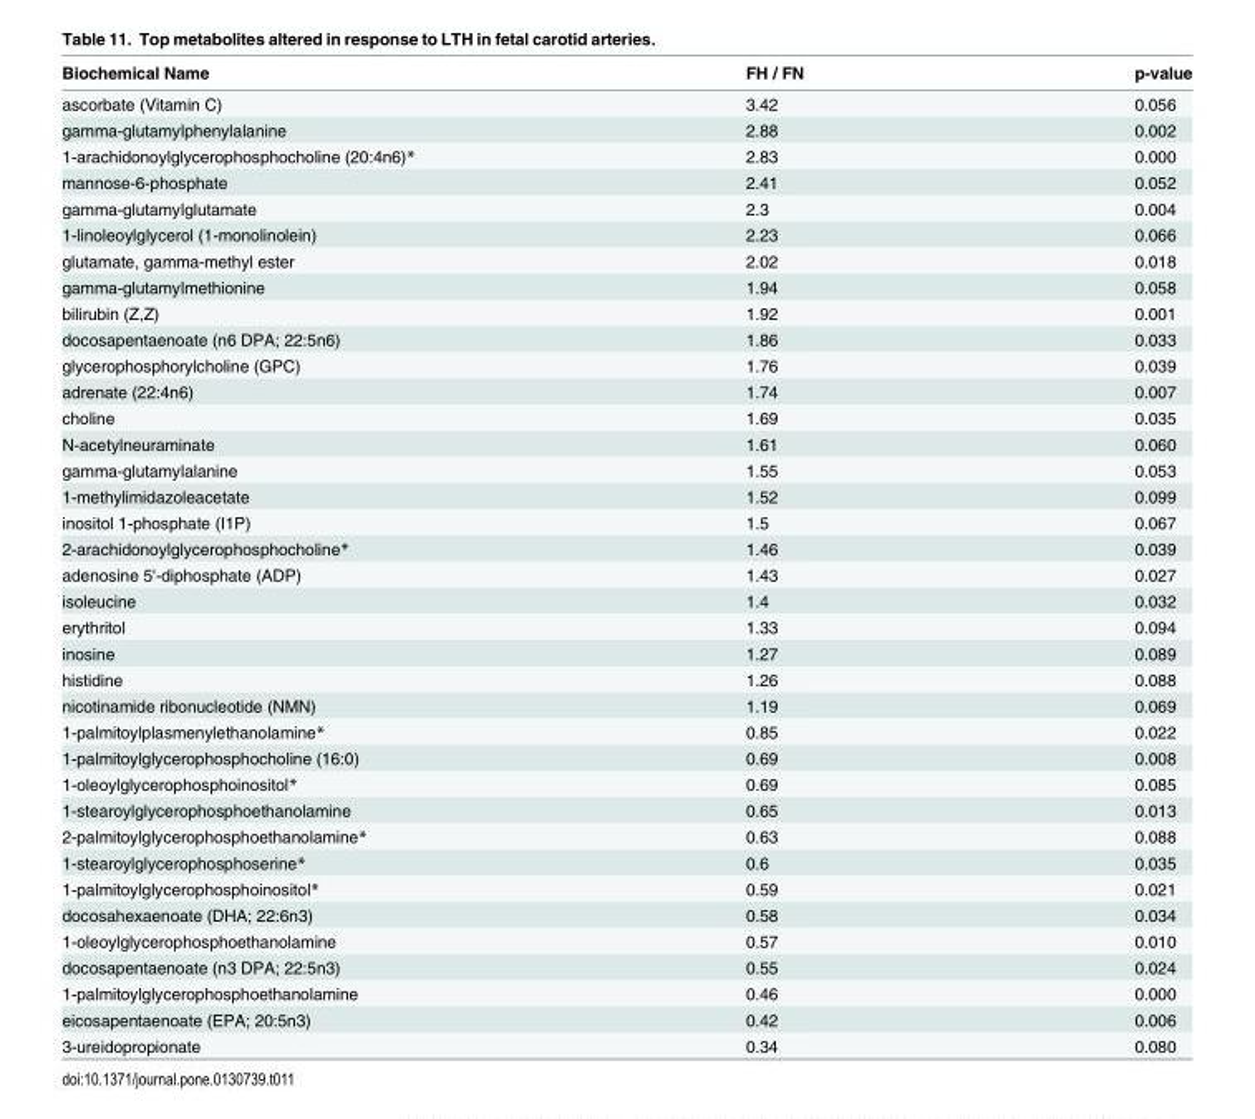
<table><thead><tr><td>Biochemical Name</td><td>FH / FN</td><td>p-value</td></tr></thead><tbody><tr><td>ascorbate (Vitamin C)</td><td>3.42</td><td>0.056</td></tr><tr><td>gamma-glutamylphenylalanine</td><td>2.88</td><td>0.002</td></tr><tr><td>1-arachidonoylglycerophosphocholine (20:4n6)*</td><td>2.83</td><td>0.000</td></tr><tr><td>mannose-6-phosphate</td><td>2.41</td><td>0.052</td></tr><tr><td>gamma-glutamylglutamate</td><td>2.3</td><td>0.004</td></tr><tr><td>1-linoleoylglycerol (1-monolinolein)</td><td>2.23</td><td>0.066</td></tr><tr><td>glutamate, gamma-methyl ester</td><td>2.02</td><td>0.018</td></tr><tr><td>gamma-glutamylmethionine</td><td>1.94</td><td>0.058</td></tr><tr><td>bilirubin (Z,Z)</td><td>1.92</td><td>0.001</td></tr><tr><td>docosapentaenoate (n6 DPA; 22:5n6)</td><td>1.86</td><td>0.033</td></tr><tr><td>glycerophosphorylcholine (GPC)</td><td>1.76</td><td>0.039</td></tr><tr><td>adrenate (22:4n6)</td><td>1.74</td><td>0.007</td></tr><tr><td>choline</td><td>1.69</td><td>0.035</td></tr><tr><td>N-acetylneuraminate</td><td>1.61</td><td>0.060</td></tr><tr><td>gamma-glutamylalanine</td><td>1.55</td><td>0.053</td></tr><tr><td>1-methylimidazoleacetate</td><td>1.52</td><td>0.099</td></tr><tr><td>inositol 1-phosphate (I1P)</td><td>1.5</td><td>0.067</td></tr><tr><td>2-arachidonoylglycerophosphocholine*</td><td>1.46</td><td>0.039</td></tr><tr><td>adenosine 5&#x27;-diphosphate (ADP)</td><td>1.43</td><td>0.027</td></tr><tr><td>isoleucine</td><td>1.4</td><td>0.032</td></tr><tr><td>erythritol</td><td>1.33</td><td>0.094</td></tr><tr><td>inosine</td><td>1.27</td><td>0.089</td></tr><tr><td>histidine</td><td>1.26</td><td>0.088</td></tr><tr><td>nicotinamide ribonucleotide (NMN)</td><td>1.19</td><td>0.069</td></tr><tr><td>1-palmitoylplasmenylethanolamine*</td><td>0.85</td><td>0.022</td></tr><tr><td>1-palmitoylglycerophosphocholine (16:0)</td><td>0.69</td><td>0.008</td></tr><tr><td>1-oleoylglycerophosphoinositol*</td><td>0.69</td><td>0.085</td></tr><tr><td>1-stearoylglycerophosphoethanolamine</td><td>0.65</td><td>0.013</td></tr><tr><td>2-palmitoylglycerophosphoethanolamine*</td><td>0.63</td><td>0.088</td></tr><tr><td>1-stearoylglycerophosphoserine*</td><td>0.6</td><td>0.035</td></tr><tr><td>1-palmitoylglycerophosphoinositol*</td><td>0.59</td><td>0.021</td></tr><tr><td>docosahexaenoate (DHA; 22:6n3)</td><td>0.58</td><td>0.034</td></tr><tr><td>1-oleoylglycerophosphoethanolamine</td><td>0.57</td><td>0.010</td></tr><tr><td>docosapentaenoate (n3 DPA; 22:5n3)</td><td>0.55</td><td>0.024</td></tr><tr><td>1-palmitoylglycerophosphoethanolamine</td><td>0.46</td><td>0.000</td></tr><tr><td>eicosapentaenoate (EPA; 20:5n3)</td><td>0.42</td><td>0.006</td></tr><tr><td>3-ureidopropionate</td><td>0.34</td><td>0.080</td></tr></tbody></table>